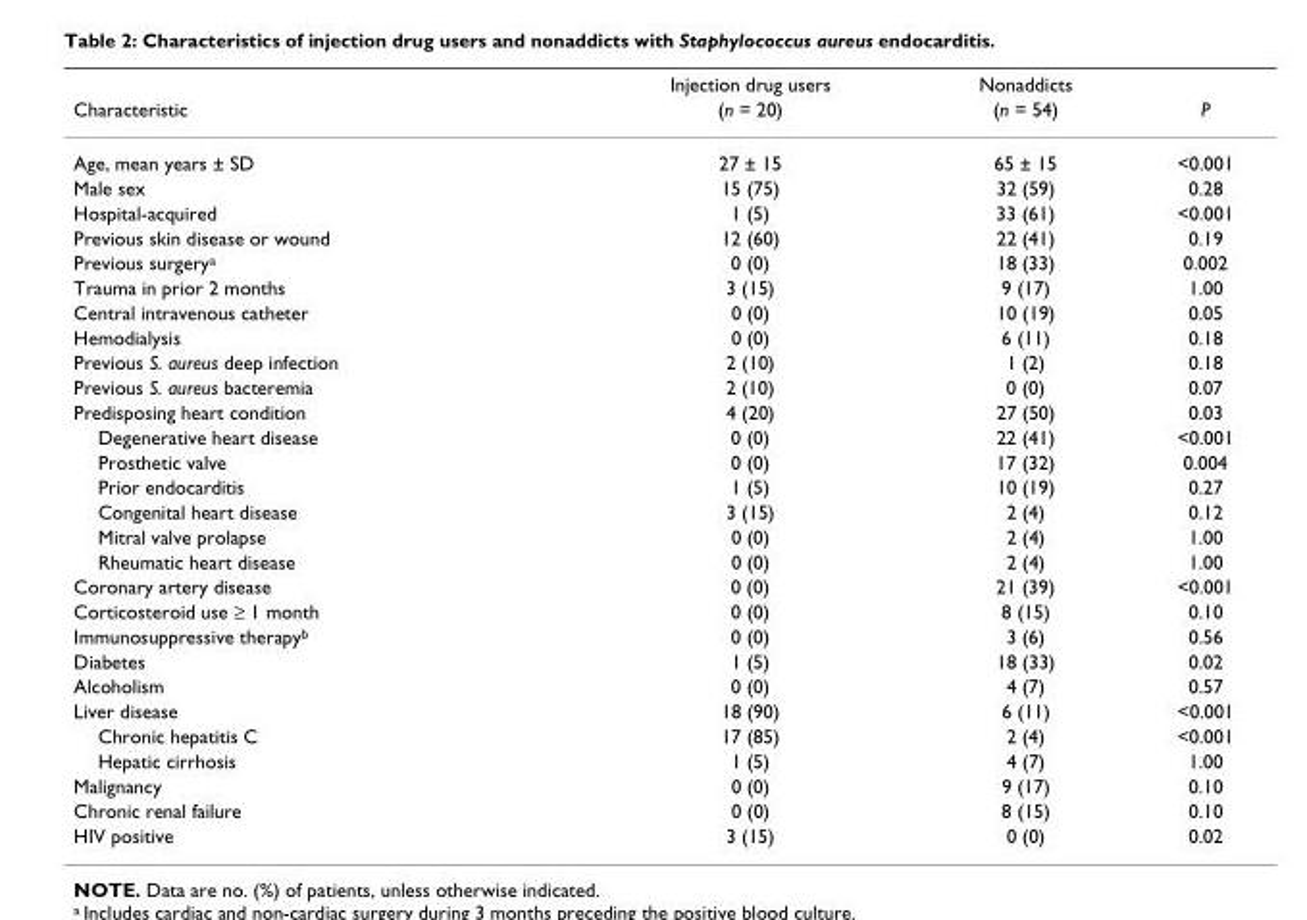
<table><thead><tr><td rowspan="2">Characteristic</td><td rowspan="2">Injection drug users (n = 20)</td><td rowspan="2">Nonaddicts (n = 54)</td><td rowspan="2">P</td></tr><tr></tr></thead><tbody><tr><td>Age, mean years ± SD</td><td>27 ± 15</td><td>65 ± 15</td><td>&lt;0.001</td></tr><tr><td>Male sex</td><td>15 (75)</td><td>32 (59)</td><td>0.28</td></tr><tr><td>Hospital-acquired</td><td>1 (5)</td><td>33 (61)</td><td>&lt;0.001</td></tr><tr><td>Previous skin disease or wound</td><td>12 (60)</td><td>22 (41)</td><td>0.19</td></tr><tr><td>Previous surgery<sup>a</sup></td><td>0 (0)</td><td>18 (33)</td><td>0.002</td></tr><tr><td>Trauma in prior 2 months</td><td>3 (15)</td><td>9 (17)</td><td>1.00</td></tr><tr><td>Central intravenous catheter</td><td>0 (0)</td><td>10 (19)</td><td>0.05</td></tr><tr><td>Hemodialysis</td><td>0 (0)</td><td>6 (11)</td><td>0.18</td></tr><tr><td>Previous S. aureus deep infection</td><td>2 (10)</td><td>1 (2)</td><td>0.18</td></tr><tr><td>Previous S. aureus bacteremia</td><td>2 (10)</td><td>0 (0)</td><td>0.07</td></tr><tr><td>Predisposing heart condition</td><td>4 (20)</td><td>27 (50)</td><td>0.03</td></tr><tr><td>Degenerative heart disease</td><td>0 (0)</td><td>22 (41)</td><td>&lt;0.001</td></tr><tr><td>Prosthetic valve</td><td>0 (0)</td><td>17 (32)</td><td>0.004</td></tr><tr><td>Prior endocarditis</td><td>1 (5)</td><td>10 (19)</td><td>0.27</td></tr><tr><td>Congenital heart disease</td><td>3 (15)</td><td>2 (4)</td><td>0.12</td></tr><tr><td>Mitral valve prolapse</td><td>0 (0)</td><td>2 (4)</td><td>1.00</td></tr><tr><td>Rheumatic heart disease</td><td>0 (0)</td><td>2 (4)</td><td>1.00</td></tr><tr><td>Coronary artery disease</td><td>0 (0)</td><td>21 (39)</td><td>&lt;0.001</td></tr><tr><td>Corticosteroid use ≥ 1 month</td><td>0 (0)</td><td>8 (15)</td><td>0.10</td></tr><tr><td>Immunosuppressive therapy<sup>b</sup></td><td>0 (0)</td><td>3 (6)</td><td>0.56</td></tr><tr><td>Diabetes</td><td>1 (5)</td><td>18 (33)</td><td>0.02</td></tr><tr><td>Alcoholism</td><td>0 (0)</td><td>4 (7)</td><td>0.57</td></tr><tr><td>Liver disease</td><td>18 (90)</td><td>6 (11)</td><td>&lt;0.001</td></tr><tr><td>Chronic hepatitis C</td><td>17 (85)</td><td>2 (4)</td><td>&lt;0.001</td></tr><tr><td>Hepatic cirrhosis</td><td>1 (5)</td><td>4 (7)</td><td>1.00</td></tr><tr><td>Malignancy</td><td>0 (0)</td><td>9 (17)</td><td>0.10</td></tr><tr><td>Chronic renal failure</td><td>0 (0)</td><td>8 (15)</td><td>0.10</td></tr><tr><td>HIV positive</td><td>3 (15)</td><td>0 (0)</td><td>0.02</td></tr></tbody></table>